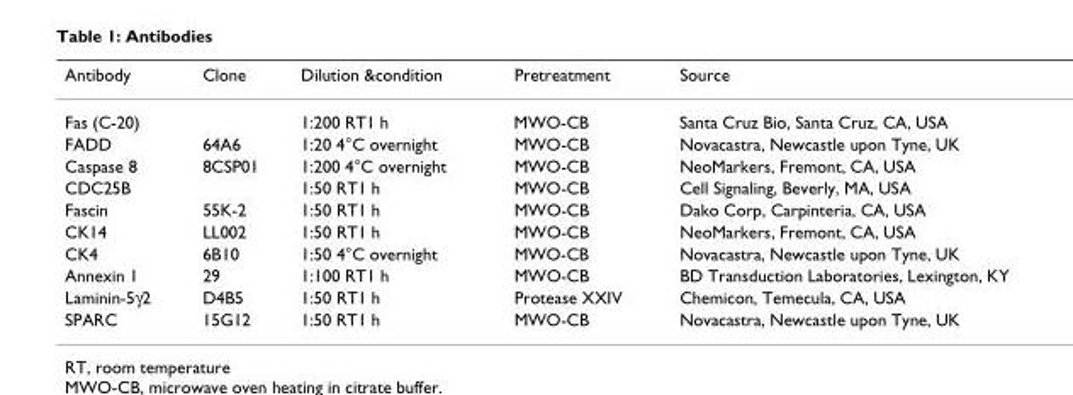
<table><thead><tr><td>Antibody</td><td>Clone</td><td>Dilution &amp;condition</td><td>Pretreatment</td><td>Source</td></tr></thead><tbody><tr><td>Fas (C-20)</td><td></td><td>1:200 RT1 h</td><td>MWO-CB</td><td>Santa Cruz Bio, Santa Cruz, CA, USA</td></tr><tr><td>FADD</td><td>64A6</td><td>1:20 4°C overnight</td><td>MWO-CB</td><td>Novacastra, Newcastle upon Tyne, UK</td></tr><tr><td>Caspase 8</td><td>8CSP01</td><td>1:200 4°C overnight</td><td>MWO-CB</td><td>NeoMarkers, Fremont, CA, USA</td></tr><tr><td>CDC25B</td><td></td><td>1:50 RT1 h</td><td>MWO-CB</td><td>Cell Signaling, Beverly, MA, USA</td></tr><tr><td>Fascin</td><td>55K-2</td><td>1:50 RT1 h</td><td>MWO-CB</td><td>Dako Corp, Carpinteria, CA, USA</td></tr><tr><td>CK14</td><td>LL002</td><td>1:50 RT1 h</td><td>MWO-CB</td><td>NeoMarkers, Fremont, CA, USA</td></tr><tr><td>CK4</td><td>6B10</td><td>1:50 4°C overnight</td><td>MWO-CB</td><td>Novacastra, Newcastle upon Tyne, UK</td></tr><tr><td>Annexin 1</td><td>29</td><td>1:100 RT1 h</td><td>MWO-CB</td><td>BD Transduction Laboratories, Lexington, KY</td></tr><tr><td>Laminin-5γ2</td><td>D4B5</td><td>1:50 RT1 h</td><td>Protease XXIV</td><td>Chemicon, Temecula, CA, USA</td></tr><tr><td>SPARC</td><td>15G12</td><td>1:50 RT1 h</td><td>MWO-CB</td><td>Novacastra, Newcastle upon Tyne, UK</td></tr></tbody></table>